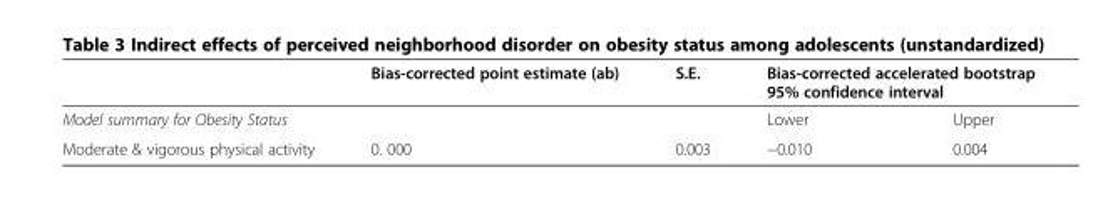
<table><thead><tr><td rowspan="2">Model summary for Obesity Status</td><td rowspan="2">Bias-corrected point estimate (ab)</td><td rowspan="2">S.E.</td><td colspan="2">Bias-corrected accelerated bootstrap 95% confidence interval</td></tr><tr><td>Lower</td><td>Upper</td></tr></thead><tbody><tr><td>Moderate &amp; vigorous physical activity</td><td>0. 000</td><td>0.003</td><td>−0.010</td><td>0.004</td></tr></tbody></table>